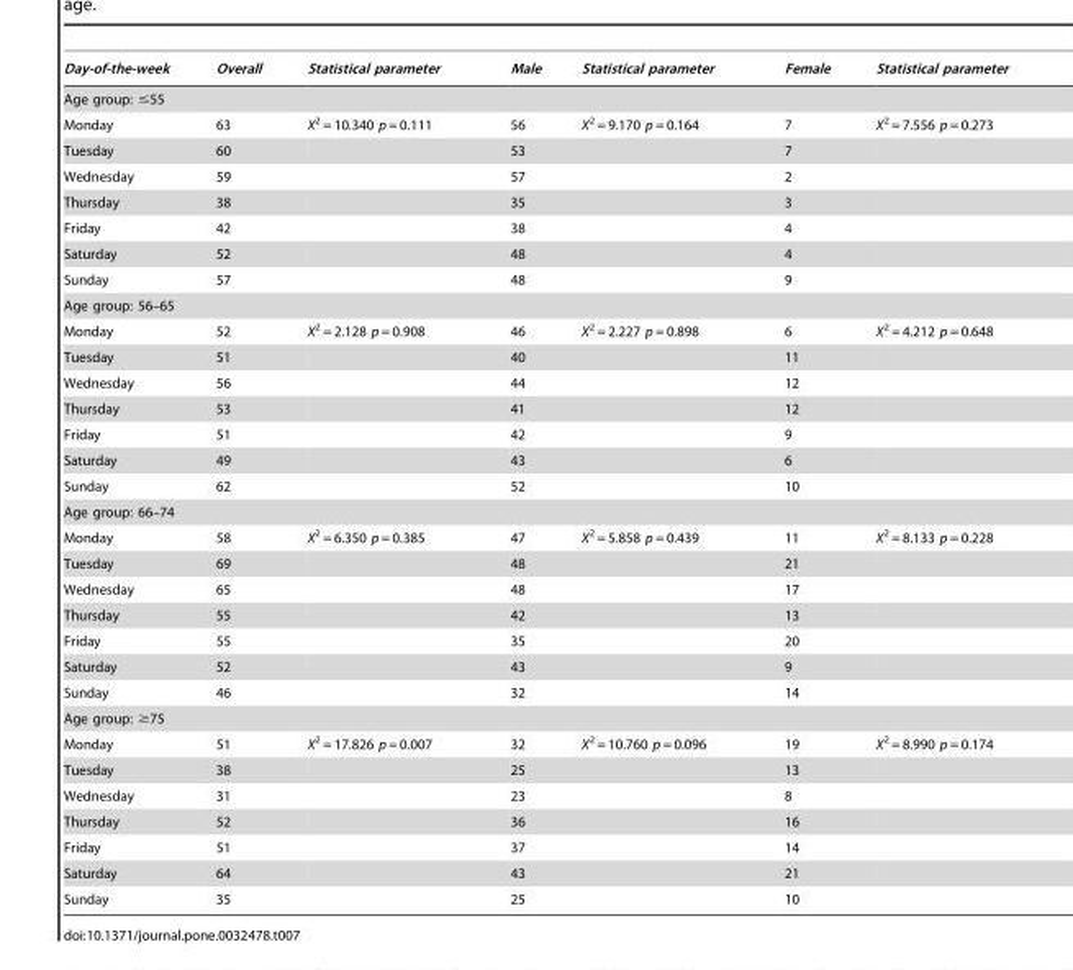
<table><thead><tr><td>Day-of-the-week</td><td>Overall</td><td>Statistical parameter</td><td>Male</td><td>Statistical parameter</td><td>Female</td><td>Statistical parameter</td></tr></thead><tbody><tr><td colspan="7">Age group: ≤55</td></tr><tr><td>Monday</td><td>63</td><td>X<sup>2</sup> = 10.340 p = 0.111</td><td>56</td><td>X<sup>2</sup> = 9.170 p = 0.164</td><td>7</td><td>X<sup>2</sup> = 7.556 p = 0.273</td></tr><tr><td>Tuesday</td><td>60</td><td></td><td>53</td><td></td><td>7</td><td></td></tr><tr><td>Wednesday</td><td>59</td><td></td><td>57</td><td></td><td>2</td><td></td></tr><tr><td>Thursday</td><td>38</td><td></td><td>35</td><td></td><td>3</td><td></td></tr><tr><td>Friday</td><td>42</td><td></td><td>38</td><td></td><td>4</td><td></td></tr><tr><td>Saturday</td><td>52</td><td></td><td>48</td><td></td><td>4</td><td></td></tr><tr><td>Sunday</td><td>57</td><td></td><td>48</td><td></td><td>9</td><td></td></tr><tr><td colspan="7">Age group: 56–65</td></tr><tr><td>Monday</td><td>52</td><td>X<sup>2</sup> = 2.128 p = 0.908</td><td>46</td><td>X<sup>2</sup> = 2.227 p = 0.898</td><td>6</td><td>X<sup>2</sup> = 4.212 p = 0.648</td></tr><tr><td>Tuesday</td><td>51</td><td></td><td>40</td><td></td><td>11</td><td></td></tr><tr><td>Wednesday</td><td>56</td><td></td><td>44</td><td></td><td>12</td><td></td></tr><tr><td>Thursday</td><td>53</td><td></td><td>41</td><td></td><td>12</td><td></td></tr><tr><td>Friday</td><td>51</td><td></td><td>42</td><td></td><td>9</td><td></td></tr><tr><td>Saturday</td><td>49</td><td></td><td>43</td><td></td><td>6</td><td></td></tr><tr><td>Sunday</td><td>62</td><td></td><td>52</td><td></td><td>10</td><td></td></tr><tr><td colspan="7">Age group: 66–74</td></tr><tr><td>Monday</td><td>58</td><td>X<sup>2</sup> = 6.350 p = 0.385</td><td>47</td><td>X<sup>2</sup> = 5.858 p = 0.439</td><td>11</td><td>X<sup>2</sup> = 8.133 p = 0.228</td></tr><tr><td>Tuesday</td><td>69</td><td></td><td>48</td><td></td><td>21</td><td></td></tr><tr><td>Wednesday</td><td>65</td><td></td><td>48</td><td></td><td>17</td><td></td></tr><tr><td>Thursday</td><td>55</td><td></td><td>42</td><td></td><td>13</td><td></td></tr><tr><td>Friday</td><td>55</td><td></td><td>35</td><td></td><td>20</td><td></td></tr><tr><td>Saturday</td><td>52</td><td></td><td>43</td><td></td><td>9</td><td></td></tr><tr><td>Sunday</td><td>46</td><td></td><td>32</td><td></td><td>14</td><td></td></tr><tr><td colspan="7">Age group: ≥75</td></tr><tr><td>Monday</td><td>51</td><td>X<sup>2</sup> = 17.826 p = 0.007</td><td>32</td><td>X<sup>2</sup> = 10.760 p = 0.096</td><td>19</td><td>X<sup>2</sup> = 8.990 p = 0.174</td></tr><tr><td>Tuesday</td><td>38</td><td></td><td>25</td><td></td><td>13</td><td></td></tr><tr><td>Wednesday</td><td>31</td><td></td><td>23</td><td></td><td>8</td><td></td></tr><tr><td>Thursday</td><td>52</td><td></td><td>36</td><td></td><td>16</td><td></td></tr><tr><td>Friday</td><td>51</td><td></td><td>37</td><td></td><td>14</td><td></td></tr><tr><td>Saturday</td><td>64</td><td></td><td>43</td><td></td><td>21</td><td></td></tr><tr><td>Sunday</td><td>35</td><td></td><td>25</td><td></td><td>10</td><td></td></tr></tbody></table>